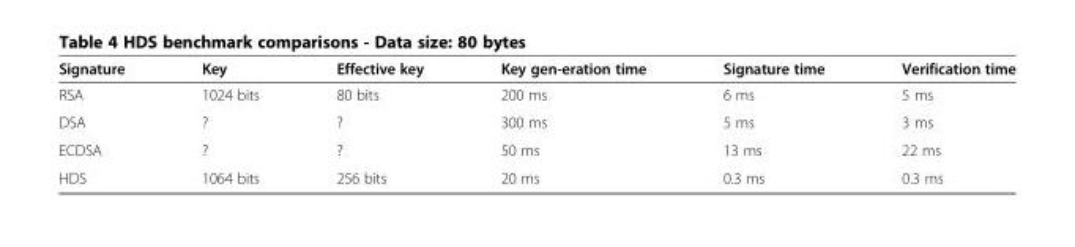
<table><thead><tr><td>Signature</td><td>Key</td><td>Effective key</td><td>Key gen-eration time</td><td>Signature time</td><td>Verification time</td></tr></thead><tbody><tr><td>RSA</td><td>1024 bits</td><td>80 bits</td><td>200 ms</td><td>6 ms</td><td>5 ms</td></tr><tr><td>DSA</td><td>?</td><td>?</td><td>300 ms</td><td>5 ms</td><td>3 ms</td></tr><tr><td>ECDSA</td><td>?</td><td>?</td><td>50 ms</td><td>13 ms</td><td>22 ms</td></tr><tr><td>HDS</td><td>1064 bits</td><td>256 bits</td><td>20 ms</td><td>0.3 ms</td><td>0.3 ms</td></tr></tbody></table>